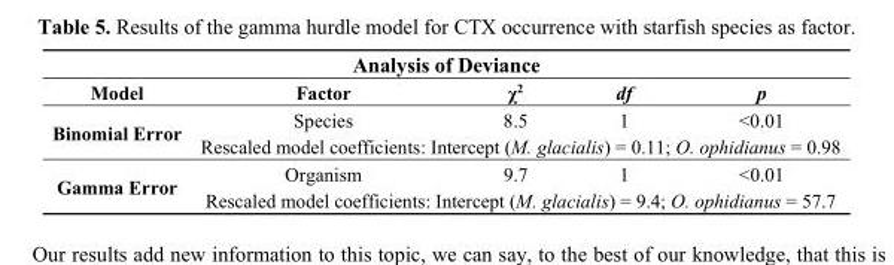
<table><thead><tr><td colspan="5">Analysis of Deviance</td></tr><tr><td>Model</td><td>Factor</td><td>χ<sup>2</sup></td><td>df</td><td>p</td></tr></thead><tbody><tr><td rowspan="2">Binomial Error</td><td>Species</td><td>8.5</td><td>1</td><td>&lt;0.01</td></tr><tr><td colspan="4">Rescaled model coefficients: Intercept (M. glacialis) = 0.11; O. ophidianus = 0.98</td></tr><tr><td rowspan="2">Gamma Error</td><td>Organism</td><td>9.7</td><td>1</td><td>&lt;0.01</td></tr><tr><td colspan="4">Rescaled model coefficients: Intercept (M. glacialis) = 9.4; O. ophidianus = 57.7</td></tr></tbody></table>